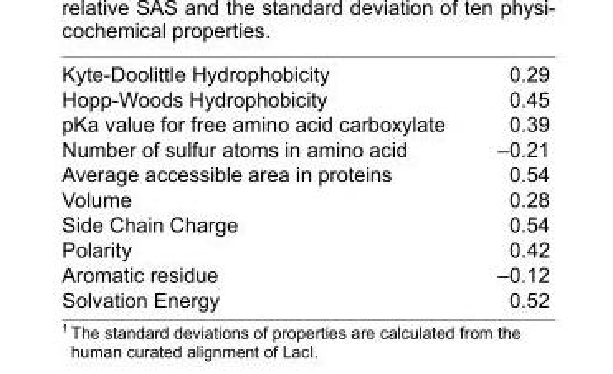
<table><tbody><tr><td>Kyte-Doolittle Hydrophobicity</td><td>0.29</td></tr><tr><td>Hopp-Woods Hydrophobicity</td><td>0.45</td></tr><tr><td>pKa value for free amino acid carboxylate</td><td>0.39</td></tr><tr><td>Number of sulfur atoms in amino acid</td><td>–0.21</td></tr><tr><td>Average accessible area in proteins</td><td>0.54</td></tr><tr><td>Volume</td><td>0.28</td></tr><tr><td>Side Chain Charge</td><td>0.54</td></tr><tr><td>Polarity</td><td>0.42</td></tr><tr><td>Aromatic residue</td><td>–0.12</td></tr><tr><td>Solvation Energy</td><td>0.52</td></tr></tbody></table>